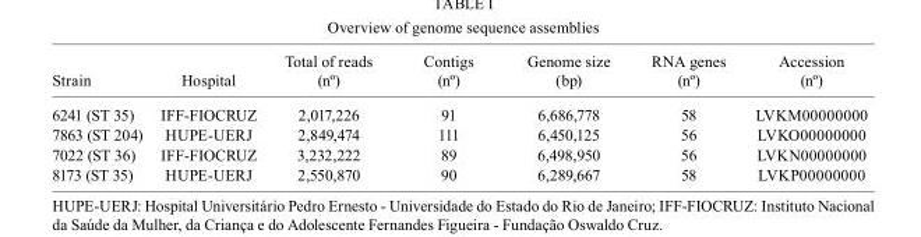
<table><thead><tr><td>Strain</td><td>Hospital</td><td>Total of reads (nº)</td><td>Contigs (nº)</td><td>Genome size (bp)</td><td>RNA genes (nº)</td><td>Accession (nº)</td></tr></thead><tbody><tr><td>6241 (ST 35)</td><td>IFF-FIOCRUZ</td><td>2,017,226</td><td>91</td><td>6,686,778</td><td>58</td><td>LVKM00000000</td></tr><tr><td>7863 (ST 204)</td><td>HUPE-UERJ</td><td>2,849,474</td><td>111</td><td>6,450,125</td><td>56</td><td>LVKO00000000</td></tr><tr><td>7022 (ST 36)</td><td>IFF-FIOCRUZ</td><td>3,232,222</td><td>89</td><td>6,498,950</td><td>56</td><td>LVKN00000000</td></tr><tr><td>8173 (ST 35)</td><td>HUPE-UERJ</td><td>2,550,870</td><td>90</td><td>6,289,667</td><td>58</td><td>LVKP00000000</td></tr></tbody></table>